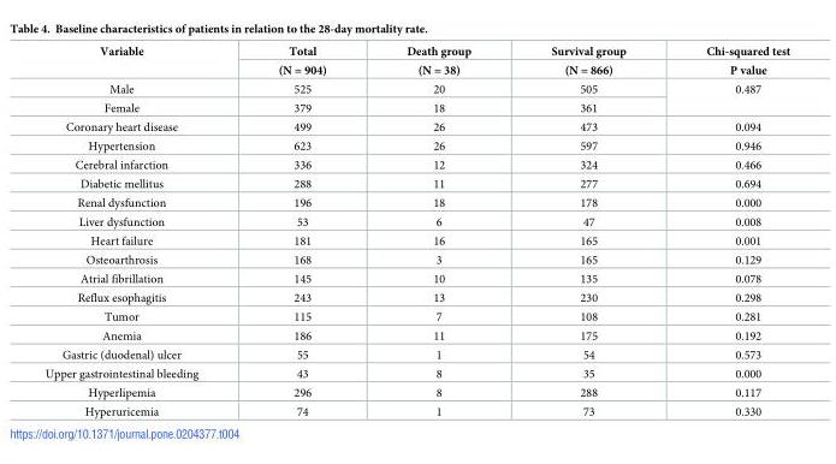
<table><thead><tr><td rowspan="2">Variable</td><td rowspan="2">Total (N = 904)</td><td rowspan="2">Death group (N = 38)</td><td rowspan="2">Survival group (N = 866)</td><td rowspan="2">Chi-squared test P value</td></tr><tr></tr></thead><tbody><tr><td>Male</td><td>525</td><td>20</td><td>505</td><td rowspan="2">0.487</td></tr><tr><td>Female</td><td>379</td><td>18</td><td>361</td></tr><tr><td>Coronary heart disease</td><td>499</td><td>26</td><td>473</td><td>0.094</td></tr><tr><td>Hypertension</td><td>623</td><td>26</td><td>597</td><td>0.946</td></tr><tr><td>Cerebral infarction</td><td>336</td><td>12</td><td>324</td><td>0.466</td></tr><tr><td>Diabetic mellitus</td><td>288</td><td>11</td><td>277</td><td>0.694</td></tr><tr><td>Renal dysfunction</td><td>196</td><td>18</td><td>178</td><td>0.000</td></tr><tr><td>Liver dysfunction</td><td>53</td><td>6</td><td>47</td><td>0.008</td></tr><tr><td>Heart failure</td><td>181</td><td>16</td><td>165</td><td>0.001</td></tr><tr><td>Osteoarthrosis</td><td>168</td><td>3</td><td>165</td><td>0.129</td></tr><tr><td>Atrial fibrillation</td><td>145</td><td>10</td><td>135</td><td>0.078</td></tr><tr><td>Reflux esophagitis</td><td>243</td><td>13</td><td>230</td><td>0.298</td></tr><tr><td>Tumor</td><td>115</td><td>7</td><td>108</td><td>0.281</td></tr><tr><td>Anemia</td><td>186</td><td>11</td><td>175</td><td>0.192</td></tr><tr><td>Gastric (duodenal) ulcer</td><td>55</td><td>1</td><td>54</td><td>0.573</td></tr><tr><td>Upper gastrointestinal bleeding</td><td>43</td><td>8</td><td>35</td><td>0.000</td></tr><tr><td>Hyperlipemia</td><td>296</td><td>8</td><td>288</td><td>0.117</td></tr><tr><td>Hyperuricemia</td><td>74</td><td>1</td><td>73</td><td>0.330</td></tr></tbody></table>